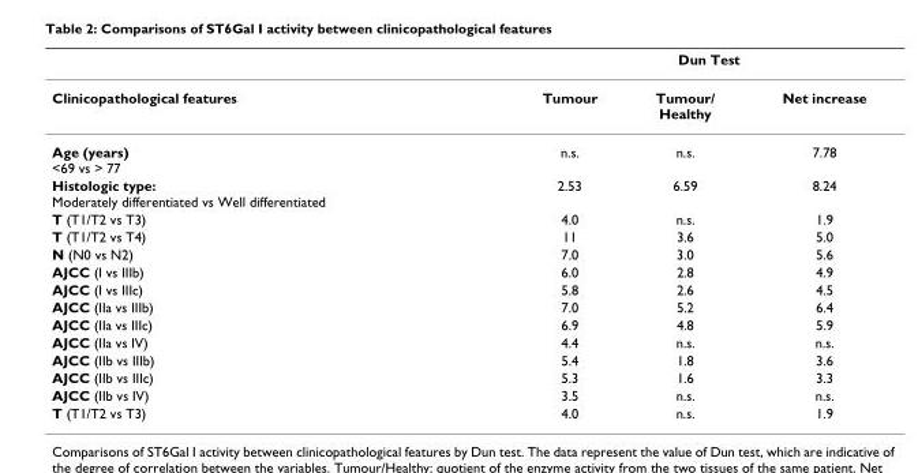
<table><thead><tr><td rowspan="2">Clinicopathological features</td><td colspan="3">Dun Test</td></tr><tr><td>Tumour</td><td>Tumour/ Healthy</td><td>Net increase</td></tr></thead><tbody><tr><td>Age (years) &lt;69 vs &gt; 77</td><td>n.s.</td><td>n.s.</td><td>7.78</td></tr><tr><td>Histologic type: Moderately differentiated vs Well differentiated</td><td>2.53</td><td>6.59</td><td>8.24</td></tr><tr><td>T (T1/T2 vs T3)</td><td>4.0</td><td>n.s.</td><td>1.9</td></tr><tr><td>T (T1/T2 vs T4)</td><td>11</td><td>3.6</td><td>5.0</td></tr><tr><td>N (N0 vs N2)</td><td>7.0</td><td>3.0</td><td>5.6</td></tr><tr><td>AJCC (I vs IIIb)</td><td>6.0</td><td>2.8</td><td>4.9</td></tr><tr><td>AJCC (I vs IIIc)</td><td>5.8</td><td>2.6</td><td>4.5</td></tr><tr><td>AJCC (IIa vs IIIb)</td><td>7.0</td><td>5.2</td><td>6.4</td></tr><tr><td>AJCC (IIa vs IIIc)</td><td>6.9</td><td>4.8</td><td>5.9</td></tr><tr><td>AJCC (IIa vs IV)</td><td>4.4</td><td>n.s.</td><td>n.s.</td></tr><tr><td>AJCC (IIb vs IIIb)</td><td>5.4</td><td>1.8</td><td>3.6</td></tr><tr><td>AJCC (IIb vs IIIc)</td><td>5.3</td><td>1.6</td><td>3.3</td></tr><tr><td>AJCC (IIb vs IV)</td><td>3.5</td><td>n.s.</td><td>n.s.</td></tr><tr><td>T (T1/T2 vs T3)</td><td>4.0</td><td>n.s.</td><td>1.9</td></tr></tbody></table>